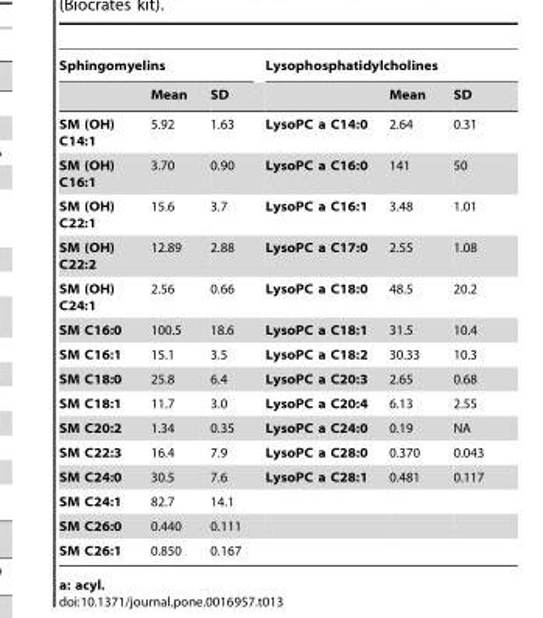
<table><thead><tr><td colspan="3">Sphingomyelins</td><td colspan="3">Lysophosphatidylcholines</td></tr><tr><td></td><td>Mean</td><td>SD</td><td></td><td>Mean</td><td>SD</td></tr></thead><tbody><tr><td>SM (OH) C14:1</td><td>5.92</td><td>1.63</td><td>LysoPC a C14:0</td><td>2.64</td><td>0.31</td></tr><tr><td>SM (OH) C16:1</td><td>3.70</td><td>0.90</td><td>LysoPC a C16:0</td><td>141</td><td>50</td></tr><tr><td>SM (OH) C22:1</td><td>15.6</td><td>3.7</td><td>LysoPC a C16:1</td><td>3.48</td><td>1.01</td></tr><tr><td>SM (OH) C22:2</td><td>12.89</td><td>2.88</td><td>LysoPC a C17:0</td><td>2.55</td><td>1.08</td></tr><tr><td>SM (OH) C24:1</td><td>2.56</td><td>0.66</td><td>LysoPC a C18:0</td><td>48.5</td><td>20.2</td></tr><tr><td>SM C16:0</td><td>100.5</td><td>18.6</td><td>LysoPC a C18:1</td><td>31.5</td><td>10.4</td></tr><tr><td>SM C16:1</td><td>15.1</td><td>3.5</td><td>LysoPC a C18:2</td><td>30.33</td><td>10.3</td></tr><tr><td>SM C18:0</td><td>25.8</td><td>6.4</td><td>LysoPC a C20:3</td><td>2.65</td><td>0.68</td></tr><tr><td>SM C18:1</td><td>11.7</td><td>3.0</td><td>LysoPC a C20:4</td><td>6.13</td><td>2.55</td></tr><tr><td>SM C20:2</td><td>1.34</td><td>0.35</td><td>LysoPC a C24:0</td><td>0.19</td><td>NA</td></tr><tr><td>SM C22:3</td><td>16.4</td><td>7.9</td><td>LysoPC a C28:0</td><td>0.370</td><td>0.043</td></tr><tr><td>SM C24:0</td><td>30.5</td><td>7.6</td><td>LysoPC a C28:1</td><td>0.481</td><td>0.117</td></tr><tr><td>SM C24:1</td><td>82.7</td><td>14.1</td><td></td><td></td><td></td></tr><tr><td>SM C26:0</td><td>0.440</td><td>0.111</td><td></td><td></td><td></td></tr><tr><td>SM C26:1</td><td>0.850</td><td>0.167</td><td></td><td></td><td></td></tr></tbody></table>